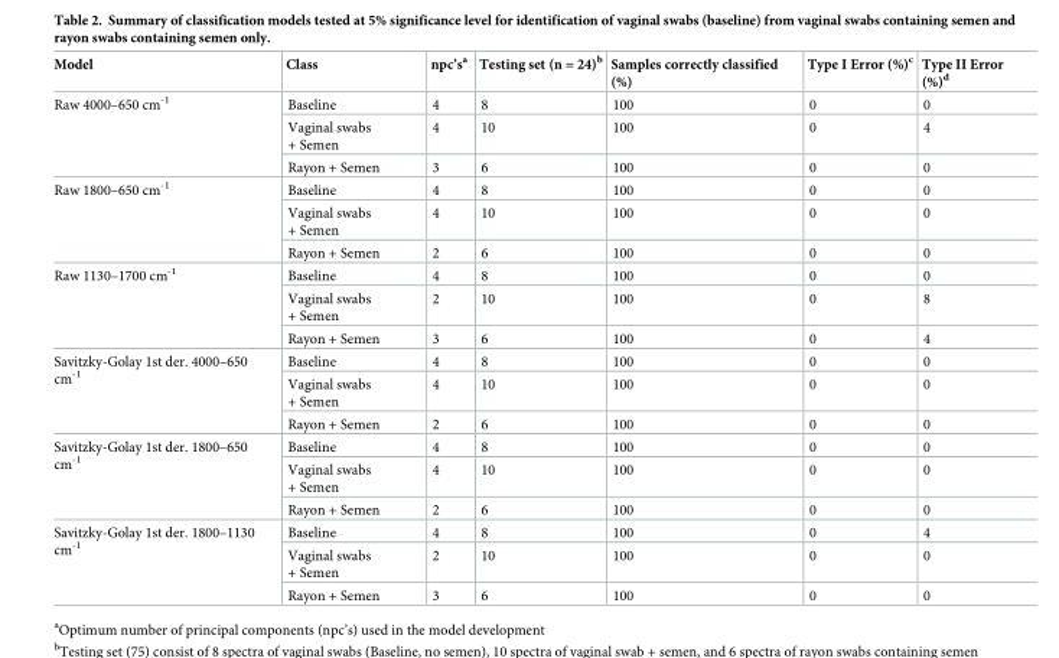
<table><thead><tr><td>Model</td><td>Class</td><td>npc’s<sup>a</sup></td><td>Testing set (n = 24)<sup>b</sup></td><td>Samples correctly classified (%)</td><td>Type I Error (%)<sup>c</sup></td><td>Type II Error (%)<sup>d</sup></td></tr></thead><tbody><tr><td rowspan="3">Raw 4000–650 cm<sup>-1</sup></td><td>Baseline</td><td>4</td><td>8</td><td>100</td><td>0</td><td>0</td></tr><tr><td>Vaginal swabs + Semen</td><td>4</td><td>10</td><td>100</td><td>0</td><td>4</td></tr><tr><td>Rayon + Semen</td><td>3</td><td>6</td><td>100</td><td>0</td><td>0</td></tr><tr><td rowspan="3">Raw 1800–650 cm<sup>-1</sup></td><td>Baseline</td><td>4</td><td>8</td><td>100</td><td>0</td><td>0</td></tr><tr><td>Vaginal swabs + Semen</td><td>4</td><td>10</td><td>100</td><td>0</td><td>0</td></tr><tr><td>Rayon + Semen</td><td>2</td><td>6</td><td>100</td><td>0</td><td>0</td></tr><tr><td rowspan="3">Raw 1130–1700 cm<sup>-1</sup></td><td>Baseline</td><td>4</td><td>8</td><td>100</td><td>0</td><td>0</td></tr><tr><td>Vaginal swabs + Semen</td><td>2</td><td>10</td><td>100</td><td>0</td><td>8</td></tr><tr><td>Rayon + Semen</td><td>3</td><td>6</td><td>100</td><td>0</td><td>4</td></tr><tr><td rowspan="3">Savitzky-Golay 1st der. 4000–650 cm<sup>-1</sup></td><td>Baseline</td><td>4</td><td>8</td><td>100</td><td>0</td><td>0</td></tr><tr><td>Vaginal swabs + Semen</td><td>4</td><td>10</td><td>100</td><td>0</td><td>0</td></tr><tr><td>Rayon + Semen</td><td>2</td><td>6</td><td>100</td><td>0</td><td>0</td></tr><tr><td rowspan="3">Savitzky-Golay 1st der. 1800–650 cm<sup>-1</sup></td><td>Baseline</td><td>4</td><td>8</td><td>100</td><td>0</td><td>0</td></tr><tr><td>Vaginal swabs + Semen</td><td>4</td><td>10</td><td>100</td><td>0</td><td>0</td></tr><tr><td>Rayon + Semen</td><td>2</td><td>6</td><td>100</td><td>0</td><td>0</td></tr><tr><td rowspan="3">Savitzky-Golay 1st der. 1800–1130 cm<sup>-1</sup></td><td>Baseline</td><td>4</td><td>8</td><td>100</td><td>0</td><td>4</td></tr><tr><td>Vaginal swabs + Semen</td><td>2</td><td>10</td><td>100</td><td>0</td><td>0</td></tr><tr><td>Rayon + Semen</td><td>3</td><td>6</td><td>100</td><td>0</td><td>0</td></tr></tbody></table>